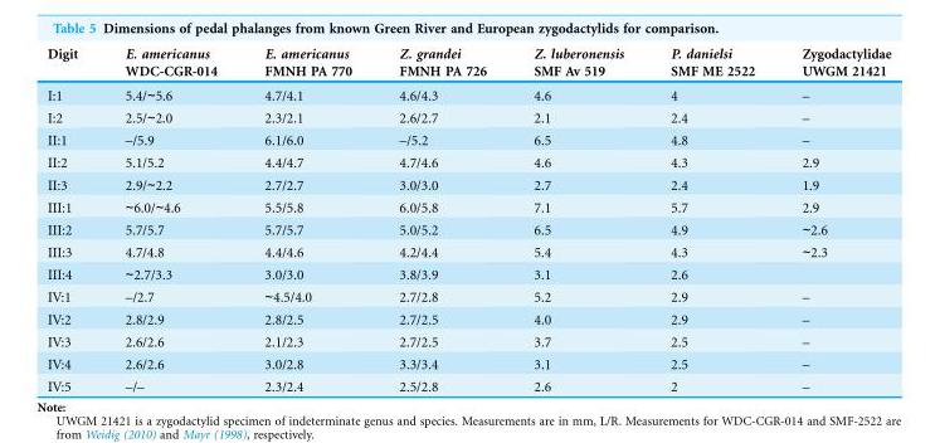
<table><thead><tr><td>Digit</td><td>E. americanus WDC-CGR-014</td><td>E. americanus FMNH PA 770</td><td>Z. grandei FMNH PA 726</td><td>Z. luberonensis SMF Av 519</td><td>P. danielsi SMF ME 2522</td><td>Zygodactylidae UWGM 21421</td></tr></thead><tbody><tr><td>I:1</td><td>5.4/∼5.6</td><td>4.7/4.1</td><td>4.6/4.3</td><td>4.6</td><td>4</td><td>–</td></tr><tr><td>I:2</td><td>2.5/∼2.0</td><td>2.3/2.1</td><td>2.6/2.7</td><td>2.1</td><td>2.4</td><td>–</td></tr><tr><td>II:1</td><td>–/5.9</td><td>6.1/6.0</td><td>–/5.2</td><td>6.5</td><td>4.8</td><td>–</td></tr><tr><td>II:2</td><td>5.1/5.2</td><td>4.4/4.7</td><td>4.7/4.6</td><td>4.6</td><td>4.3</td><td>2.9</td></tr><tr><td>II:3</td><td>2.9/∼2.2</td><td>2.7/2.7</td><td>3.0/3.0</td><td>2.7</td><td>2.4</td><td>1.9</td></tr><tr><td>III:1</td><td>∼6.0/∼4.6</td><td>5.5/5.8</td><td>6.0/5.8</td><td>7.1</td><td>5.7</td><td>2.9</td></tr><tr><td>III:2</td><td>5.7/5.7</td><td>5.7/5.7</td><td>5.0/5.2</td><td>6.5</td><td>4.9</td><td>∼2.6</td></tr><tr><td>III:3</td><td>4.7/4.8</td><td>4.4/4.6</td><td>4.2/4.4</td><td>5.4</td><td>4.3</td><td>∼2.3</td></tr><tr><td>III:4</td><td>∼2.7/3.3</td><td>3.0/3.0</td><td>3.8/3.9</td><td>3.1</td><td>2.6</td><td></td></tr><tr><td>IV:1</td><td>–/2.7</td><td>∼4.5/4.0</td><td>2.7/2.8</td><td>5.2</td><td>2.9</td><td>–</td></tr><tr><td>IV:2</td><td>2.8/2.9</td><td>2.8/2.5</td><td>2.7/2.5</td><td>4.0</td><td>2.9</td><td>–</td></tr><tr><td>IV:3</td><td>2.6/2.6</td><td>2.1/2.3</td><td>2.7/2.5</td><td>3.7</td><td>2.5</td><td>–</td></tr><tr><td>IV:4</td><td>2.6/2.6</td><td>3.0/2.8</td><td>3.3/3.4</td><td>3.1</td><td>2.5</td><td>–</td></tr><tr><td>IV:5</td><td>–/–</td><td>2.3/2.4</td><td>2.5/2.8</td><td>2.6</td><td>2</td><td>–</td></tr></tbody></table>